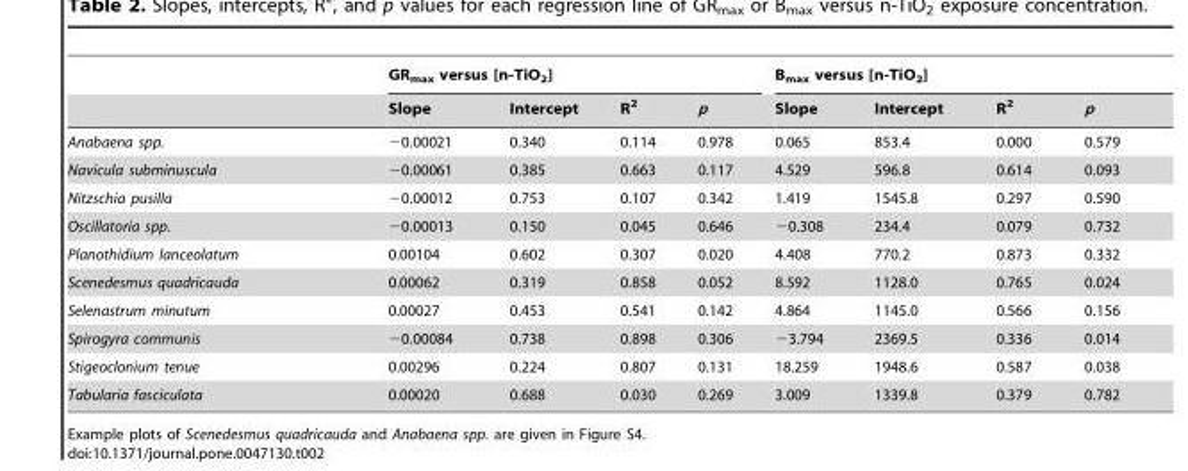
<table><thead><tr><td rowspan="2"></td><td colspan="4">GR<sub>max</sub> versus [n-TiO<sub>2</sub>]</td><td colspan="4">B<sub>max</sub> versus [n-TiO<sub>2</sub>]</td></tr><tr><td>Slope</td><td>Intercept</td><td>R<sup>2</sup></td><td>p</td><td>Slope</td><td>Intercept</td><td>R<sup>2</sup></td><td>p</td></tr></thead><tbody><tr><td>Anabaena spp.</td><td>−0.00021</td><td>0.340</td><td>0.114</td><td>0.978</td><td>0.065</td><td>853.4</td><td>0.000</td><td>0.579</td></tr><tr><td>Navicula subminuscula</td><td>−0.00061</td><td>0.385</td><td>0.663</td><td>0.117</td><td>4.529</td><td>596.8</td><td>0.614</td><td>0.093</td></tr><tr><td>Nitzschia pusilla</td><td>−0.00012</td><td>0.753</td><td>0.107</td><td>0.342</td><td>1.419</td><td>1545.8</td><td>0.297</td><td>0.590</td></tr><tr><td>Oscillatoria spp.</td><td>−0.00013</td><td>0.150</td><td>0.045</td><td>0.646</td><td>−0.308</td><td>234.4</td><td>0.079</td><td>0.732</td></tr><tr><td>Planothidium lanceolatum</td><td>0.00104</td><td>0.602</td><td>0.307</td><td>0.020</td><td>4.408</td><td>770.2</td><td>0.873</td><td>0.332</td></tr><tr><td>Scenedesmus quadricauda</td><td>0.00062</td><td>0.319</td><td>0.858</td><td>0.052</td><td>8.592</td><td>1128.0</td><td>0.765</td><td>0.024</td></tr><tr><td>Selenastrum minutum</td><td>0.00027</td><td>0.453</td><td>0.541</td><td>0.142</td><td>4.864</td><td>1145.0</td><td>0.566</td><td>0.156</td></tr><tr><td>Spirogyra communis</td><td>−0.00084</td><td>0.738</td><td>0.898</td><td>0.306</td><td>−3.794</td><td>2369.5</td><td>0.336</td><td>0.014</td></tr><tr><td>Stigeoclonium tenue</td><td>0.00296</td><td>0.224</td><td>0.807</td><td>0.131</td><td>18.259</td><td>1948.6</td><td>0.587</td><td>0.038</td></tr><tr><td>Tabularia fasciculata</td><td>0.00020</td><td>0.688</td><td>0.030</td><td>0.269</td><td>3.009</td><td>1339.8</td><td>0.379</td><td>0.782</td></tr></tbody></table>